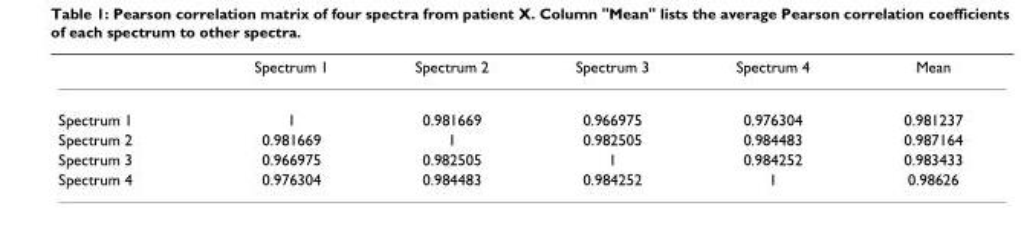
<table><thead><tr><td></td><td>Spectrum 1</td><td>Spectrum 2</td><td>Spectrum 3</td><td>Spectrum 4</td><td>Mean</td></tr></thead><tbody><tr><td>Spectrum 1</td><td>1</td><td>0.981669</td><td>0.966975</td><td>0.976304</td><td>0.981237</td></tr><tr><td>Spectrum 2</td><td>0.981669</td><td>1</td><td>0.982505</td><td>0.984483</td><td>0.987164</td></tr><tr><td>Spectrum 3</td><td>0.966975</td><td>0.982505</td><td>1</td><td>0.984252</td><td>0.983433</td></tr><tr><td>Spectrum 4</td><td>0.976304</td><td>0.984483</td><td>0.984252</td><td>1</td><td>0.98626</td></tr></tbody></table>